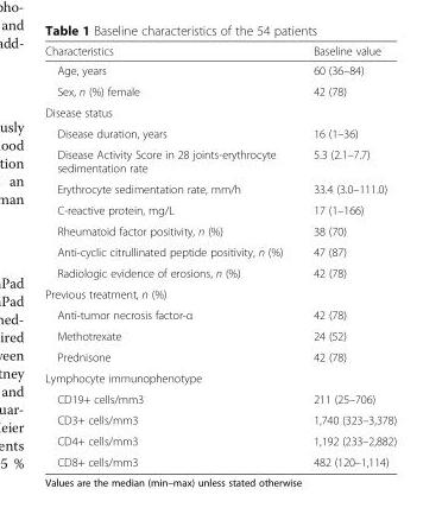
<table><thead><tr><td>Characteristics</td><td>Baseline value</td></tr></thead><tbody><tr><td>Age, years</td><td>60 (36–84)</td></tr><tr><td>Sex, n (%) female</td><td>42 (78)</td></tr><tr><td colspan="2">Disease status</td></tr><tr><td>Disease duration, years</td><td>16 (1–36)</td></tr><tr><td>Disease Activity Score in 28 joints-erythrocyte sedimentation rate</td><td>5.3 (2.1–7.7)</td></tr><tr><td>Erythrocyte sedimentation rate, mm/h</td><td>33.4 (3.0–111.0)</td></tr><tr><td>C-reactive protein, mg/L</td><td>17 (1–166)</td></tr><tr><td>Rheumatoid factor positivity, n (%)</td><td>38 (70)</td></tr><tr><td>Anti-cyclic citrullinated peptide positivity, n (%)</td><td>47 (87)</td></tr><tr><td>Radiologic evidence of erosions, n (%)</td><td>42 (78)</td></tr><tr><td colspan="2">Previous treatment, n (%)</td></tr><tr><td>Anti-tumor necrosis factor-α</td><td>42 (78)</td></tr><tr><td>Methotrexate</td><td>24 (52)</td></tr><tr><td>Prednisone</td><td>42 (78)</td></tr><tr><td colspan="2">Lymphocyte immunophenotype</td></tr><tr><td>CD19+ cells/mm3</td><td>211 (25–706)</td></tr><tr><td>CD3+ cells/mm3</td><td>1,740 (323–3,378)</td></tr><tr><td>CD4+ cells/mm3</td><td>1,192 (233–2,882)</td></tr><tr><td>CD8+ cells/mm3</td><td>482 (120–1,114)</td></tr></tbody></table>